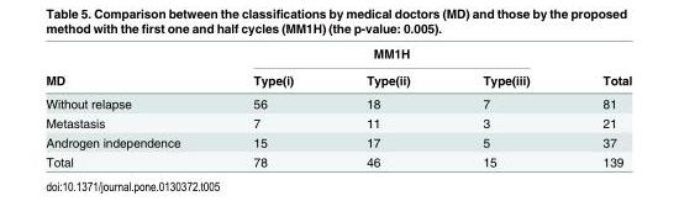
<table><thead><tr><td rowspan="2">MD</td><td colspan="3">MM1H</td><td rowspan="2">Total</td></tr><tr><td>Type(i)</td><td>Type(ii)</td><td>Type(iii)</td></tr></thead><tbody><tr><td>Without relapse</td><td>56</td><td>18</td><td>7</td><td>81</td></tr><tr><td>Metastasis</td><td>7</td><td>11</td><td>3</td><td>21</td></tr><tr><td>Androgen independence</td><td>15</td><td>17</td><td>5</td><td>37</td></tr><tr><td>Total</td><td>78</td><td>46</td><td>15</td><td>139</td></tr></tbody></table>